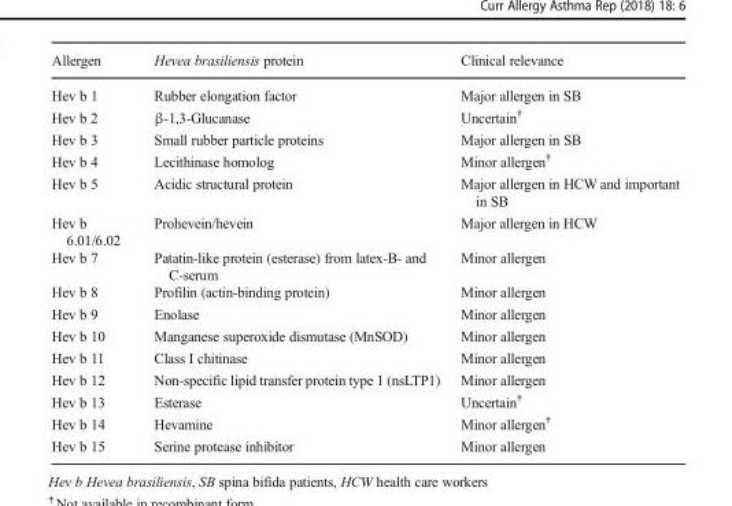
<table><thead><tr><td>Allergen</td><td>Hevea brasiliensis protein</td><td>Clinical relevance</td></tr></thead><tbody><tr><td>Hev b 1</td><td>Rubber elongation factor</td><td>Major allergen in SB</td></tr><tr><td>Hev b 2</td><td>β-1,3-Glucanase</td><td>Uncertain<sup>†</sup></td></tr><tr><td>Hev b 3</td><td>Small rubber particle proteins</td><td>Major allergen in SB</td></tr><tr><td>Hev b 4</td><td>Lecithinase homolog</td><td>Minor allergen<sup>†</sup></td></tr><tr><td>Hev b 5</td><td>Acidic structural protein</td><td>Major allergen in HCW and important in SB</td></tr><tr><td>Hev b 6.01/6.02</td><td>Prohevein/hevein</td><td>Major allergen in HCW</td></tr><tr><td>Hev b 7</td><td>Patatin-like protein (esterase) from latex-B- and C-serum</td><td>Minor allergen</td></tr><tr><td>Hev b 8</td><td>Profilin (actin-binding protein)</td><td>Minor allergen</td></tr><tr><td>Hev b 9</td><td>Enolase</td><td>Minor allergen</td></tr><tr><td>Hev b 10</td><td>Manganese superoxide dismutase (MnSOD)</td><td>Minor allergen</td></tr><tr><td>Hev b 11</td><td>Class I chitinase</td><td>Minor allergen</td></tr><tr><td>Hev b 12</td><td>Non-specific lipid transfer protein type 1 (nsLTP1)</td><td>Minor allergen</td></tr><tr><td>Hev b 13</td><td>Esterase</td><td>Uncertain<sup>†</sup></td></tr><tr><td>Hev b 14</td><td>Hevamine</td><td>Minor allergen<sup>†</sup></td></tr><tr><td>Hev b 15</td><td>Serine protease inhibitor</td><td>Minor allergen</td></tr></tbody></table>